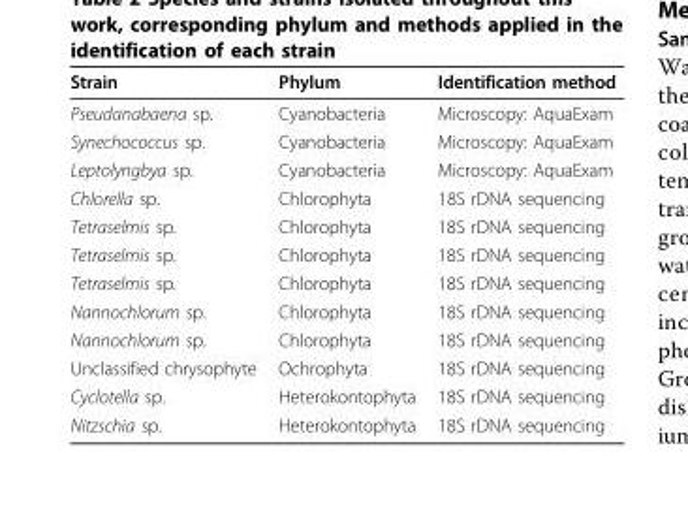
<table><thead><tr><td>Strain</td><td>Phylum</td><td>Identification method</td></tr></thead><tbody><tr><td>Pseudanabaena sp.</td><td>Cyanobacteria</td><td>Microscopy: AquaExam</td></tr><tr><td>Synechococcus sp.</td><td>Cyanobacteria</td><td>Microscopy: AquaExam</td></tr><tr><td>Leptolyngbya sp.</td><td>Cyanobacteria</td><td>Microscopy: AquaExam</td></tr><tr><td>Chlorella sp.</td><td>Chlorophyta</td><td>18S rDNA sequencing</td></tr><tr><td>Tetraselmis sp.</td><td>Chlorophyta</td><td>18S rDNA sequencing</td></tr><tr><td>Tetraselmis sp.</td><td>Chlorophyta</td><td>18S rDNA sequencing</td></tr><tr><td>Tetraselmis sp.</td><td>Chlorophyta</td><td>18S rDNA sequencing</td></tr><tr><td>Nannochlorum sp.</td><td>Chlorophyta</td><td>18S rDNA sequencing</td></tr><tr><td>Nannochlorum sp.</td><td>Chlorophyta</td><td>18S rDNA sequencing</td></tr><tr><td>Unclassified chrysophyte</td><td>Ochrophyta</td><td>18S rDNA sequencing</td></tr><tr><td>Cyclotella sp.</td><td>Heterokontophyta</td><td>18S rDNA sequencing</td></tr><tr><td>Nitzschia sp.</td><td>Heterokontophyta</td><td>18S rDNA sequencing</td></tr></tbody></table>